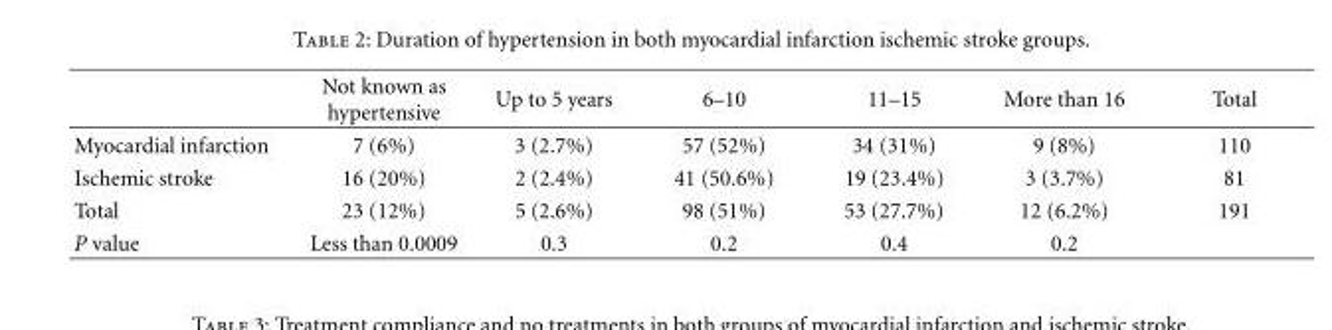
<table><thead><tr><td></td><td>Not known as hypertensive</td><td>Up to 5 years</td><td>6–10</td><td>11–15</td><td>More than 16</td><td>Total</td></tr></thead><tbody><tr><td>Myocardial infarction</td><td>7 (6%)</td><td>3 (2.7%)</td><td>57 (52%)</td><td>34 (31%)</td><td>9 (8%)</td><td>110</td></tr><tr><td>Ischemic stroke</td><td>16 (20%)</td><td>2 (2.4%)</td><td>41 (50.6%)</td><td>19 (23.4%)</td><td>3 (3.7%)</td><td>81</td></tr><tr><td>Total</td><td>23 (12%)</td><td>5 (2.6%)</td><td>98 (51%)</td><td>53 (27.7%)</td><td>12 (6.2%)</td><td>191</td></tr><tr><td>P value</td><td>Less than 0.0009</td><td>0.3</td><td>0.2</td><td>0.4</td><td>0.2</td><td></td></tr></tbody></table>